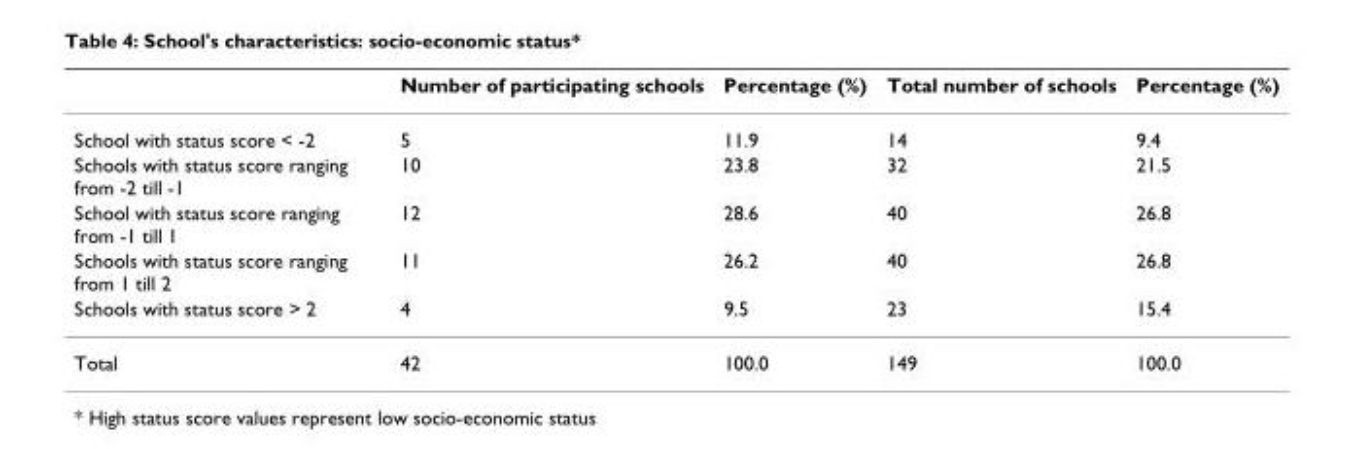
<table><thead><tr><td></td><td>Number of participating schools</td><td>Percentage (%)</td><td>Total number of schools</td><td>Percentage (%)</td></tr></thead><tbody><tr><td>School with status score &lt; -2</td><td>5</td><td>11.9</td><td>14</td><td>9.4</td></tr><tr><td>Schools with status score ranging from -2 till -1</td><td>10</td><td>23.8</td><td>32</td><td>21.5</td></tr><tr><td>School with status score ranging from -1 till 1</td><td>12</td><td>28.6</td><td>40</td><td>26.8</td></tr><tr><td>Schools with status score ranging from 1 till 2</td><td>11</td><td>26.2</td><td>40</td><td>26.8</td></tr><tr><td>Schools with status score &gt; 2</td><td>4</td><td>9.5</td><td>23</td><td>15.4</td></tr><tr><td>Total</td><td>42</td><td>100.0</td><td>149</td><td>100.0</td></tr></tbody></table>